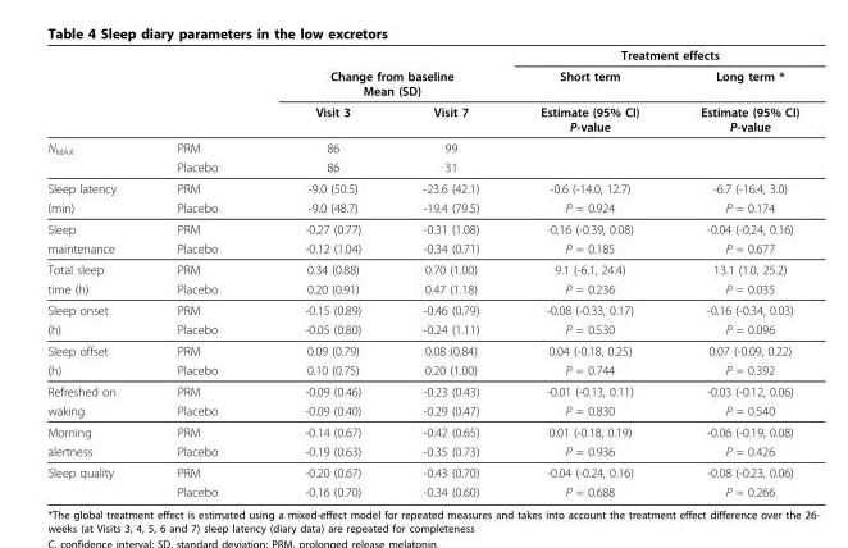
<table><thead><tr><td rowspan="3"></td><td rowspan="3"></td><td></td><td></td><td colspan="2">Treatment effects</td></tr><tr><td colspan="2">Change from baseline Mean (SD)</td><td rowspan="2">Short term Estimate (95% CI) P-value</td><td rowspan="2">Long term * Estimate (95% CI) P-value</td></tr><tr><td>Visit 3</td><td>Visit 7</td></tr></thead><tbody><tr><td rowspan="2">NMAX</td><td>PRM</td><td>86</td><td>99</td><td></td><td></td></tr><tr><td>Placebo</td><td>86</td><td>31</td><td></td><td></td></tr><tr><td>Sleep latency</td><td>PRM</td><td>-9.0 (50.5)</td><td>-23.6 (42.1)</td><td>-0.6 (-14.0, 12.7)</td><td>-6.7 (-16.4, 3.0)</td></tr><tr><td>(min)</td><td>Placebo</td><td>-9.0 (48.7)</td><td>-19.4 (79.5)</td><td>P = 0.924</td><td>P = 0.174</td></tr><tr><td>Sleep</td><td>PRM</td><td>-0.27 (0.77)</td><td>-0.31 (1.08)</td><td>-0.16 (-0.39, 0.08)</td><td>-0.04 (-0.24, 0.16)</td></tr><tr><td>maintenance</td><td>Placebo</td><td>-0.12 (1.04)</td><td>-0.34 (0.71)</td><td>P = 0.185</td><td>P = 0.677</td></tr><tr><td>Total sleep</td><td>PRM</td><td>0.34 (0.88)</td><td>0.70 (1.00)</td><td>9.1 (-6.1, 24.4)</td><td>13.1 (1.0, 25.2)</td></tr><tr><td>time (h)</td><td>Placebo</td><td>0.20 (0.91)</td><td>0.47 (1.18)</td><td>P = 0.236</td><td>P = 0.035</td></tr><tr><td>Sleep onset</td><td>PRM</td><td>-0.15 (0.89)</td><td>-0.46 (0.79)</td><td>-0.08 (-0.33, 0.17)</td><td>-0.16 (-0.34, 0.03)</td></tr><tr><td>(h)</td><td>Placebo</td><td>-0.05 (0.80)</td><td>-0.24 (1.11)</td><td>P = 0.530</td><td>P = 0.096</td></tr><tr><td>Sleep offset</td><td>PRM</td><td>0.09 (0.79)</td><td>0.08 (0.84)</td><td>0.04 (-0.18, 0.25)</td><td>0.07 (-0.09, 0.22)</td></tr><tr><td>(h)</td><td>Placebo</td><td>0.10 (0.75)</td><td>0.20 (1.00)</td><td>P = 0.744</td><td>P = 0.392</td></tr><tr><td>Refreshed on</td><td>PRM</td><td>-0.09 (0.46)</td><td>-0.23 (0.43)</td><td>-0.01 (-0.13, 0.11)</td><td>-0.03 (-0.12, 0.06)</td></tr><tr><td>waking</td><td>Placebo</td><td>-0.09 (0.40)</td><td>-0.29 (0.47)</td><td>P = 0.830</td><td>P = 0.540</td></tr><tr><td>Morning</td><td>PRM</td><td>-0.14 (0.67)</td><td>-0.42 (0.65)</td><td>0.01 (-0.18, 0.19)</td><td>-0.06 (-0.19, 0.08)</td></tr><tr><td>alertness</td><td>Placebo</td><td>-0.19 (0.63)</td><td>-0.35 (0.73)</td><td>P = 0.936</td><td>P = 0.426</td></tr><tr><td rowspan="2">Sleep quality</td><td>PRM</td><td>-0.20 (0.67)</td><td>-0.43 (0.70)</td><td>-0.04 (-0.24, 0.16)</td><td>-0.08 (-0.23, 0.06)</td></tr><tr><td>Placebo</td><td>-0.16 (0.70)</td><td>-0.34 (0.60)</td><td>P = 0.688</td><td>P = 0.266</td></tr></tbody></table>